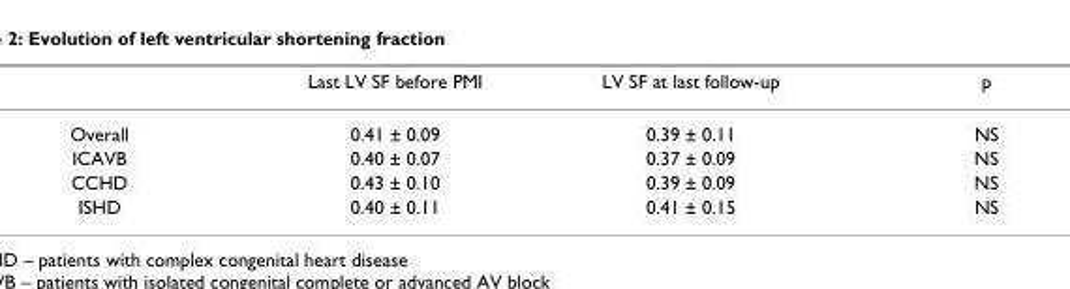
<table><thead><tr><td></td><td>Last LV SF before PMI</td><td>LV SF at last follow-up</td><td>p</td></tr></thead><tbody><tr><td>Overall</td><td>0.41 ± 0.09</td><td>0.39 ± 0.11</td><td>NS</td></tr><tr><td>ICAVB</td><td>0.40 ± 0.07</td><td>0.37 ± 0.09</td><td>NS</td></tr><tr><td>CCHD</td><td>0.43 ± 0.10</td><td>0.39 ± 0.09</td><td>NS</td></tr><tr><td>ISHD</td><td>0.40 ± 0.11</td><td>0.41 ± 0.15</td><td>NS</td></tr></tbody></table>